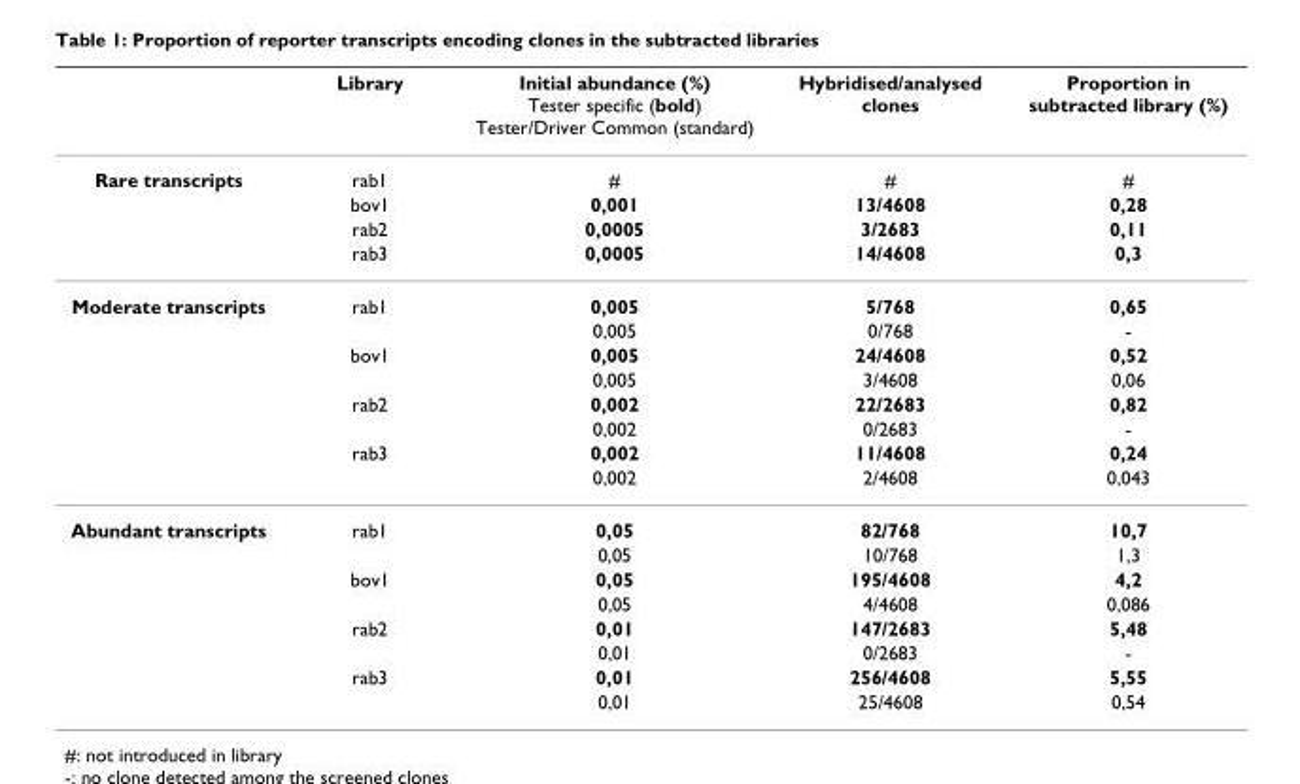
<table><thead><tr><td></td><td>Library</td><td>Initial abundance (%) Tester specific (bold) Tester/Driver Common (standard)</td><td>Hybridised/analysed clones</td><td>Proportion in subtracted library (%)</td></tr></thead><tbody><tr><td rowspan="4">Rare transcripts</td><td>rab1</td><td>#</td><td>#</td><td>#</td></tr><tr><td>bov1</td><td>0,001</td><td>13/4608</td><td>0,28</td></tr><tr><td>rab2</td><td>0,0005</td><td>3/2683</td><td>0,11</td></tr><tr><td>rab3</td><td>0,0005</td><td>14/4608</td><td>0,3</td></tr><tr><td rowspan="8">Moderate transcripts</td><td>rab1</td><td>0,005</td><td>5/768</td><td>0,65</td></tr><tr><td></td><td>0,005</td><td>0/768</td><td>-</td></tr><tr><td>bov1</td><td>0,005</td><td>24/4608</td><td>0,52</td></tr><tr><td></td><td>0,005</td><td>3/4608</td><td>0,06</td></tr><tr><td>rab2</td><td>0,002</td><td>22/2683</td><td>0,82</td></tr><tr><td></td><td>0,002</td><td>0/2683</td><td>-</td></tr><tr><td>rab3</td><td>0,002</td><td>11/4608</td><td>0,24</td></tr><tr><td></td><td>0,002</td><td>2/4608</td><td>0,043</td></tr><tr><td rowspan="8">Abundant transcripts</td><td>rab1</td><td>0,05</td><td>82/768</td><td>10,7</td></tr><tr><td></td><td>0,05</td><td>10/768</td><td>1,3</td></tr><tr><td>bov1</td><td>0,05</td><td>195/4608</td><td>4,2</td></tr><tr><td></td><td>0,05</td><td>4/4608</td><td>0,086</td></tr><tr><td>rab2</td><td>0,01</td><td>147/2683</td><td>5,48</td></tr><tr><td></td><td>0,01</td><td>0/2683</td><td>-</td></tr><tr><td>rab3</td><td>0,01</td><td>256/4608</td><td>5,55</td></tr><tr><td></td><td>0,01</td><td>25/4608</td><td>0,54</td></tr></tbody></table>